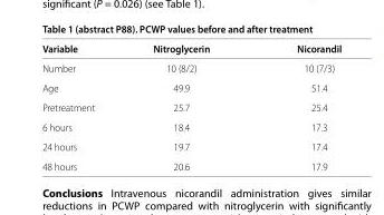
<table><thead><tr><td>Variable</td><td>Nitroglycerin</td><td>Nicorandil</td></tr></thead><tbody><tr><td>Number</td><td>10 (8/2)</td><td>10 (7/3)</td></tr><tr><td>Age</td><td>49.9</td><td>51.4</td></tr><tr><td>Pretreatment</td><td>25.7</td><td>25.4</td></tr><tr><td>6 hours</td><td>18.4</td><td>17.3</td></tr><tr><td>24 hours</td><td>19.7</td><td>17.4</td></tr><tr><td>48 hours</td><td>20.6</td><td>17.9</td></tr></tbody></table>